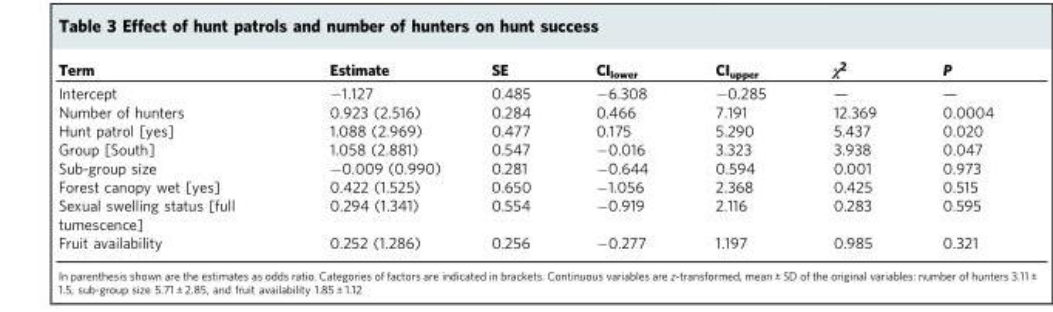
<table><thead><tr><td>Term</td><td>Estimate</td><td>SE</td><td>CI<sub>lower</sub></td><td>CI<sub>upper</sub></td><td>χ<sup>2</sup></td><td>P</td></tr></thead><tbody><tr><td>Intercept</td><td>−1.127</td><td>0.485</td><td>−6.308</td><td>−0.285</td><td>—</td><td>—</td></tr><tr><td>Number of hunters</td><td>0.923 (2.516)</td><td>0.284</td><td>0.466</td><td>7.191</td><td>12.369</td><td>0.0004</td></tr><tr><td>Hunt patrol [yes]</td><td>1.088 (2.969)</td><td>0.477</td><td>0.175</td><td>5.290</td><td>5.437</td><td>0.020</td></tr><tr><td>Group [South]</td><td>1.058 (2.881)</td><td>0.547</td><td>−0.016</td><td>3.323</td><td>3.938</td><td>0.047</td></tr><tr><td>Sub-group size</td><td>−0.009 (0.990)</td><td>0.281</td><td>−0.644</td><td>0.594</td><td>0.001</td><td>0.973</td></tr><tr><td>Forest canopy wet [yes]</td><td>0.422 (1.525)</td><td>0.650</td><td>−1.056</td><td>2.368</td><td>0.425</td><td>0.515</td></tr><tr><td>Sexual swelling status [full tumescence]</td><td>0.294 (1.341)</td><td>0.554</td><td>−0.919</td><td>2.116</td><td>0.283</td><td>0.595</td></tr><tr><td>Fruit availability</td><td>0.252 (1.286)</td><td>0.256</td><td>−0.277</td><td>1.197</td><td>0.985</td><td>0.321</td></tr></tbody></table>